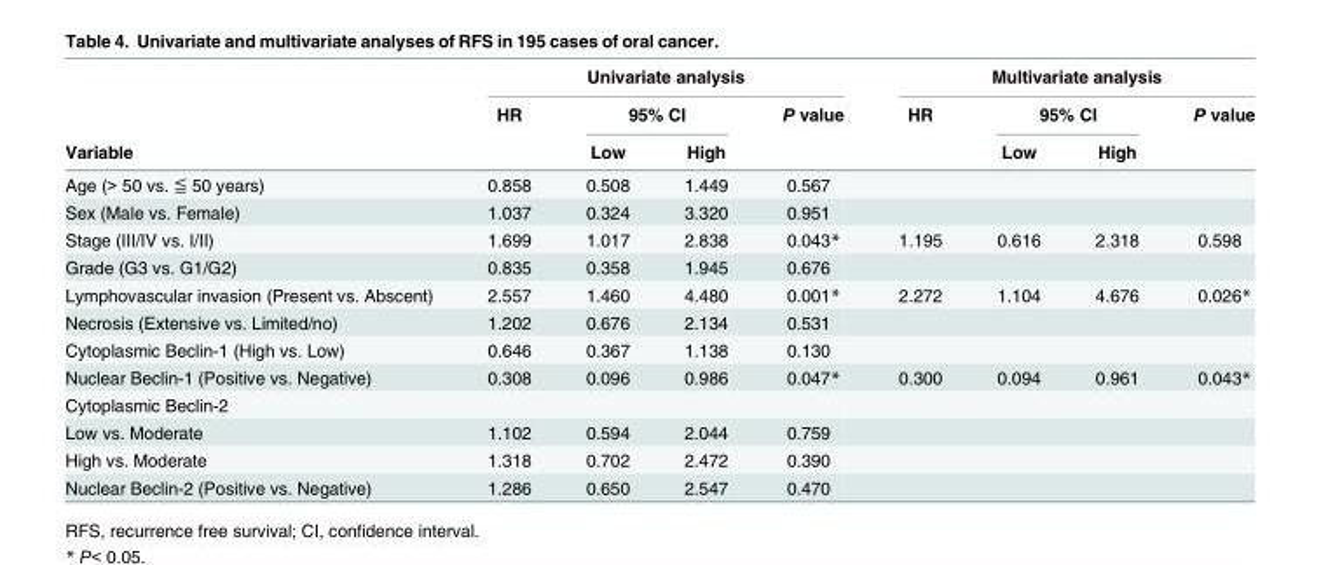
<table><thead><tr><td rowspan="3">Variable</td><td colspan="4">Univariate analysis</td><td colspan="4">Multivariate analysis</td></tr><tr><td rowspan="2">HR</td><td colspan="2">95% CI</td><td rowspan="2">P value</td><td rowspan="2">HR</td><td colspan="2">95% CI</td><td rowspan="2">P value</td></tr><tr><td>Low</td><td>High</td><td>Low</td><td>High</td></tr></thead><tbody><tr><td>Age (&gt; 50 vs. ≦ 50 years)</td><td>0.858</td><td>0.508</td><td>1.449</td><td>0.567</td><td></td><td></td><td></td><td></td></tr><tr><td>Sex (Male vs. Female)</td><td>1.037</td><td>0.324</td><td>3.320</td><td>0.951</td><td></td><td></td><td></td><td></td></tr><tr><td>Stage (III/IV vs. I/II)</td><td>1.699</td><td>1.017</td><td>2.838</td><td>0.043*</td><td>1.195</td><td>0.616</td><td>2.318</td><td>0.598</td></tr><tr><td>Grade (G3 vs. G1/G2)</td><td>0.835</td><td>0.358</td><td>1.945</td><td>0.676</td><td></td><td></td><td></td><td></td></tr><tr><td>Lymphovascular invasion (Present vs. Abscent)</td><td>2.557</td><td>1.460</td><td>4.480</td><td>0.001*</td><td>2.272</td><td>1.104</td><td>4.676</td><td>0.026*</td></tr><tr><td>Necrosis (Extensive vs. Limited/no)</td><td>1.202</td><td>0.676</td><td>2.134</td><td>0.531</td><td></td><td></td><td></td><td></td></tr><tr><td>Cytoplasmic Beclin-1 (High vs. Low)</td><td>0.646</td><td>0.367</td><td>1.138</td><td>0.130</td><td></td><td></td><td></td><td></td></tr><tr><td>Nuclear Beclin-1 (Positive vs. Negative)</td><td>0.308</td><td>0.096</td><td>0.986</td><td>0.047*</td><td>0.300</td><td>0.094</td><td>0.961</td><td>0.043*</td></tr><tr><td colspan="9">Cytoplasmic Beclin-2</td></tr><tr><td>Low vs. Moderate</td><td>1.102</td><td>0.594</td><td>2.044</td><td>0.759</td><td></td><td></td><td></td><td></td></tr><tr><td>High vs. Moderate</td><td>1.318</td><td>0.702</td><td>2.472</td><td>0.390</td><td></td><td></td><td></td><td></td></tr><tr><td>Nuclear Beclin-2 (Positive vs. Negative)</td><td>1.286</td><td>0.650</td><td>2.547</td><td>0.470</td><td></td><td></td><td></td><td></td></tr></tbody></table>